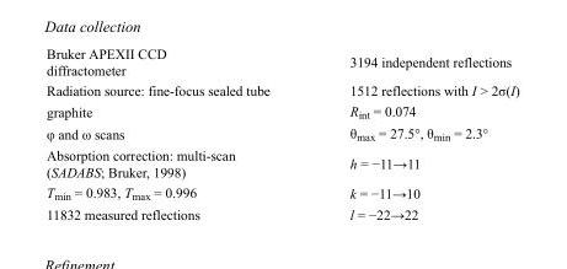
<table><tbody><tr><td>Bruker APEXII CCD diffractometer</td><td>3194 independent reflections</td></tr><tr><td>Radiation source: fine-focus sealed tube</td><td>1512 reflections with I &gt; 2σ(I)</td></tr><tr><td>graphite</td><td>R<sub>int</sub> = 0.074</td></tr><tr><td>φ and ω scans</td><td>θ<sub>max</sub> = 27.5°, θ<sub>min</sub> = 2.3°</td></tr><tr><td>Absorption correction: multi-scan (SADABS; Bruker, 1998)</td><td>h = −11→11</td></tr><tr><td>T<sub>min</sub> = 0.983, T<sub>max</sub> = 0.996</td><td>k = −11→10</td></tr><tr><td>11832 measured reflections</td><td>l = −22→22</td></tr></tbody></table>